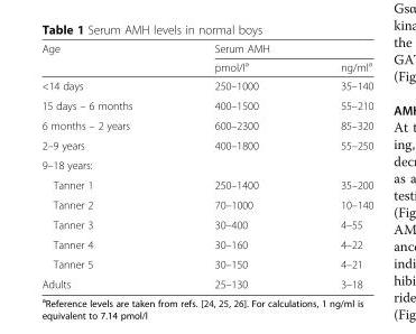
<table><thead><tr><td rowspan="2">Age</td><td colspan="2">Serum AMH</td></tr><tr><td>pmol/l<sup>a</sup></td><td>ng/ml<sup>a</sup></td></tr></thead><tbody><tr><td>&lt;14 days</td><td>250–1000</td><td>35–140</td></tr><tr><td>15 days – 6 months</td><td>400–1500</td><td>55–210</td></tr><tr><td>6 months – 2 years</td><td>600–2300</td><td>85–320</td></tr><tr><td>2–9 years</td><td>400–1800</td><td>55–250</td></tr><tr><td colspan="3">9–18 years:</td></tr><tr><td>Tanner 1</td><td>250–1400</td><td>35–200</td></tr><tr><td>Tanner 2</td><td>70–1000</td><td>10–140</td></tr><tr><td>Tanner 3</td><td>30–400</td><td>4–55</td></tr><tr><td>Tanner 4</td><td>30–160</td><td>4–22</td></tr><tr><td>Tanner 5</td><td>30–150</td><td>4–21</td></tr><tr><td>Adults</td><td>25–130</td><td>3–18</td></tr></tbody></table>